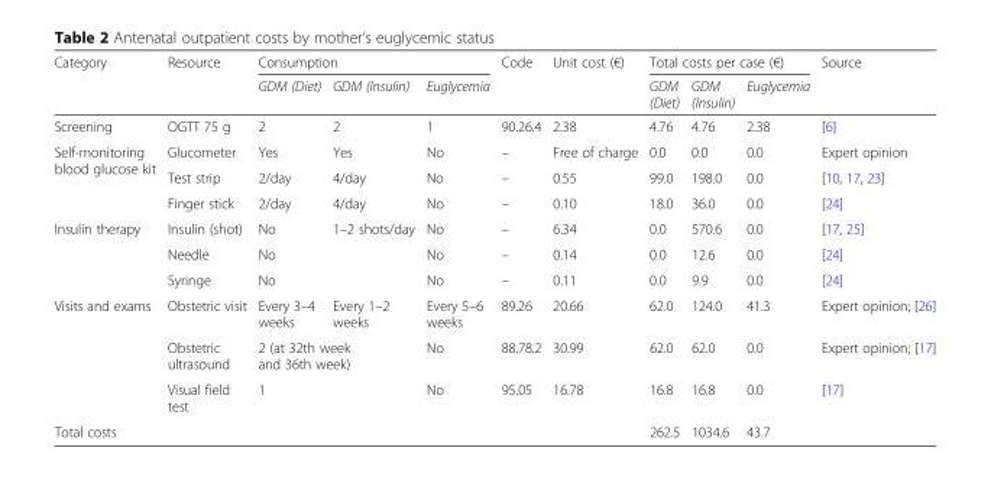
<table><thead><tr><td rowspan="2">Category</td><td rowspan="2">Resource</td><td colspan="3">Consumption</td><td rowspan="2">Code</td><td rowspan="2">Unit cost (€)</td><td colspan="3">Total costs per case (€)</td><td rowspan="2">Source</td></tr><tr><td>GDM (Diet)</td><td>GDM (Insulin)</td><td>Euglycemia</td><td>GDM (Diet)</td><td>GDM (Insulin)</td><td>Euglycemia</td></tr></thead><tbody><tr><td>Screening</td><td>OGTT 75 g</td><td>2</td><td>2</td><td>1</td><td>90.26.4</td><td>2.38</td><td>4.76</td><td>4.76</td><td>2.38</td><td>[6]</td></tr><tr><td rowspan="3">Self-monitoring blood glucose kit</td><td>Glucometer</td><td>Yes</td><td>Yes</td><td>No</td><td>–</td><td>Free of charge</td><td>0.0</td><td>0.0</td><td>0.0</td><td>Expert opinion</td></tr><tr><td>Test strip</td><td>2/day</td><td>4/day</td><td>No</td><td>–</td><td>0.55</td><td>99.0</td><td>198.0</td><td>0.0</td><td>[10, 17, 23]</td></tr><tr><td>Finger stick</td><td>2/day</td><td>4/day</td><td>No</td><td>–</td><td>0.10</td><td>18.0</td><td>36.0</td><td>0.0</td><td>[24]</td></tr><tr><td rowspan="3">Insulin therapy</td><td>Insulin (shot)</td><td>No</td><td rowspan="3">1–2 shots/day</td><td>No</td><td>–</td><td>6.34</td><td>0.0</td><td>570.6</td><td>0.0</td><td>[17, 25]</td></tr><tr><td>Needle</td><td>No</td><td>No</td><td>–</td><td>0.14</td><td>0.0</td><td>12.6</td><td>0.0</td><td>[24]</td></tr><tr><td>Syringe</td><td>No</td><td>No</td><td>–</td><td>0.11</td><td>0.0</td><td>9.9</td><td>0.0</td><td>[24]</td></tr><tr><td rowspan="3">Visits and exams</td><td>Obstetric visit</td><td>Every 3–4 weeks</td><td>Every 1–2 weeks</td><td>Every 5–6 weeks</td><td>89.26</td><td>20.66</td><td>62.0</td><td>124.0</td><td>41.3</td><td>Expert opinion; [26]</td></tr><tr><td>Obstetric ultrasound</td><td colspan="2">2 (at 32th week and 36th week)</td><td>No</td><td>88.78.2</td><td>30.99</td><td>62.0</td><td>62.0</td><td>0.0</td><td>Expert opinion; [17]</td></tr><tr><td>Visual field test</td><td colspan="2">1</td><td>No</td><td>95.05</td><td>16.78</td><td>16.8</td><td>16.8</td><td>0.0</td><td>[17]</td></tr><tr><td>Total costs</td><td colspan="6"></td><td>262.5</td><td>1034.6</td><td>43.7</td><td></td></tr></tbody></table>